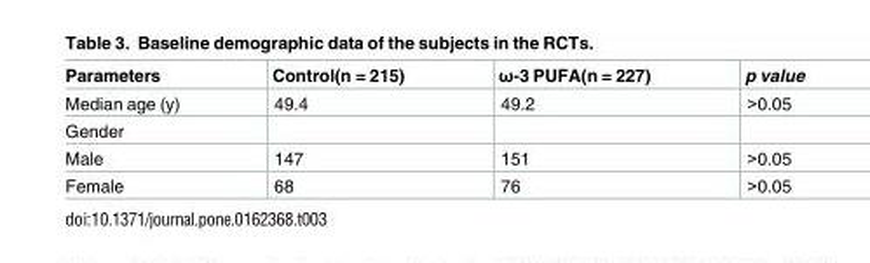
<table><thead><tr><td>Parameters</td><td>Control(n = 215)</td><td>ω-3 PUFA(n = 227)</td><td>p value</td></tr></thead><tbody><tr><td>Median age (y)</td><td>49.4</td><td>49.2</td><td>&gt;0.05</td></tr><tr><td colspan="4">Gender</td></tr><tr><td>Male</td><td>147</td><td>151</td><td>&gt;0.05</td></tr><tr><td>Female</td><td>68</td><td>76</td><td>&gt;0.05</td></tr></tbody></table>